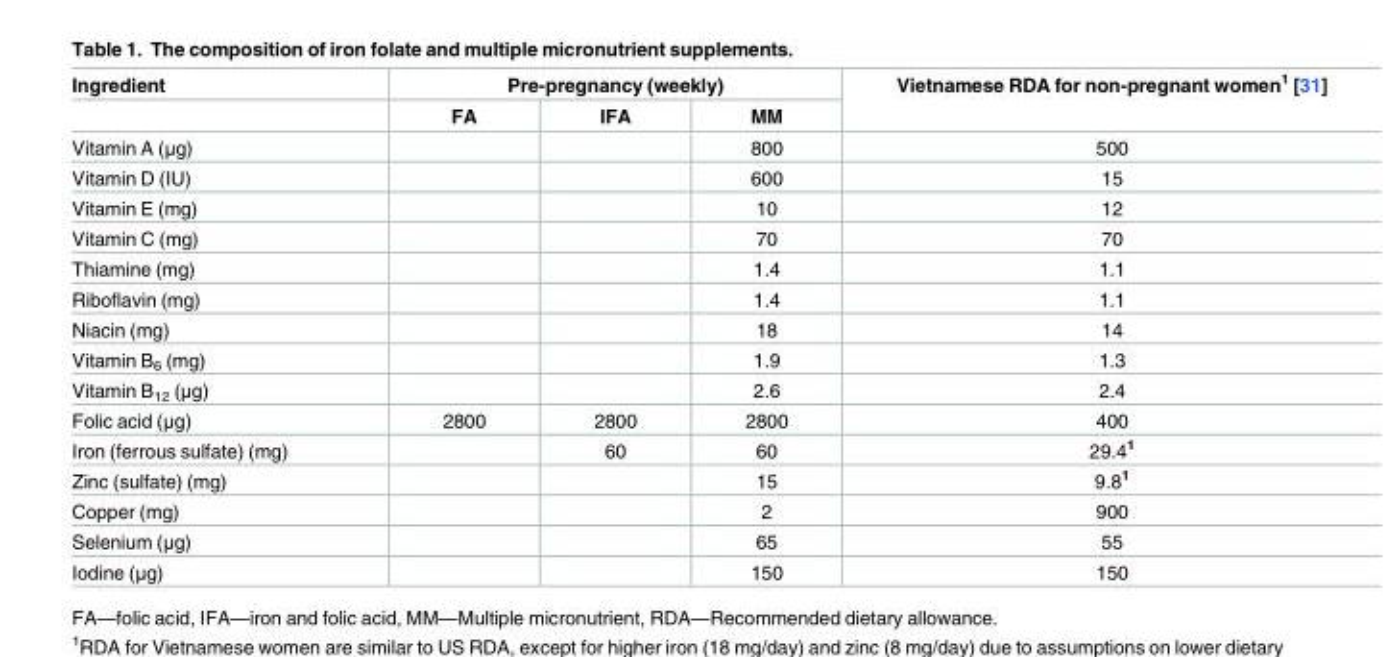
<table><thead><tr><td rowspan="2">Ingredient</td><td colspan="3">Pre-pregnancy (weekly)</td><td rowspan="2">Vietnamese RDA for non-pregnant women<sup>1</sup> [31]</td></tr><tr><td>FA</td><td>IFA</td><td>MM</td></tr></thead><tbody><tr><td>Vitamin A (μg)</td><td></td><td></td><td>800</td><td>500</td></tr><tr><td>Vitamin D (IU)</td><td></td><td></td><td>600</td><td>15</td></tr><tr><td>Vitamin E (mg)</td><td></td><td></td><td>10</td><td>12</td></tr><tr><td>Vitamin C (mg)</td><td></td><td></td><td>70</td><td>70</td></tr><tr><td>Thiamine (mg)</td><td></td><td></td><td>1.4</td><td>1.1</td></tr><tr><td>Riboflavin (mg)</td><td></td><td></td><td>1.4</td><td>1.1</td></tr><tr><td>Niacin (mg)</td><td></td><td></td><td>18</td><td>14</td></tr><tr><td>Vitamin B<sub>6</sub> (mg)</td><td></td><td></td><td>1.9</td><td>1.3</td></tr><tr><td>Vitamin B<sub>12</sub> (μg)</td><td></td><td></td><td>2.6</td><td>2.4</td></tr><tr><td>Folic acid (μg)</td><td>2800</td><td>2800</td><td>2800</td><td>400</td></tr><tr><td>Iron (ferrous sulfate) (mg)</td><td></td><td>60</td><td>60</td><td>29.4<sup>1</sup></td></tr><tr><td>Zinc (sulfate) (mg)</td><td></td><td></td><td>15</td><td>9.8<sup>1</sup></td></tr><tr><td>Copper (mg)</td><td></td><td></td><td>2</td><td>900</td></tr><tr><td>Selenium (μg)</td><td></td><td></td><td>65</td><td>55</td></tr><tr><td>Iodine (μg)</td><td></td><td></td><td>150</td><td>150</td></tr></tbody></table>